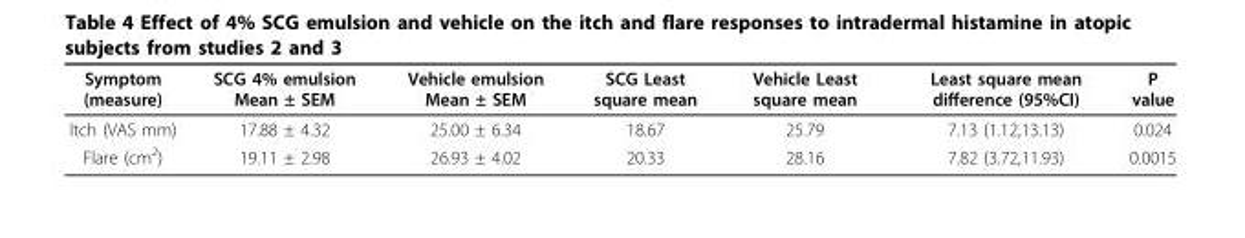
<table><thead><tr><td>Symptom (measure)</td><td>SCG 4% emulsion Mean ± SEM</td><td>Vehicle emulsion Mean ± SEM</td><td>SCG Least square mean</td><td>Vehicle Least square mean</td><td>Least square mean difference (95%CI)</td><td>P value</td></tr></thead><tbody><tr><td>Itch (VAS mm)</td><td>17.88 ± 4.32</td><td>25.00 ± 6.34</td><td>18.67</td><td>25.79</td><td>7.13 (1.12,13.13)</td><td>0.024</td></tr><tr><td>Flare (cm<sup>2</sup>)</td><td>19.11 ± 2.98</td><td>26.93 ± 4.02</td><td>20.33</td><td>28.16</td><td>7.82 (3.72,11.93)</td><td>0.0015</td></tr></tbody></table>